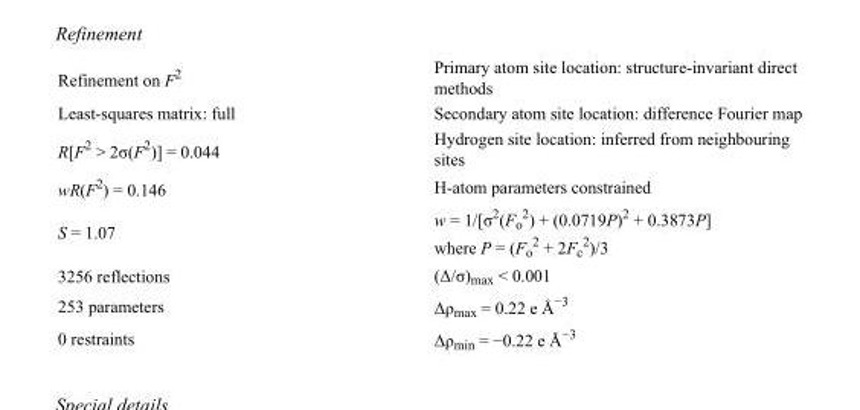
<table><tbody><tr><td>Refinement on F<sup>2</sup></td><td>Primary atom site location: structure-invariant direct methods</td></tr><tr><td>Least-squares matrix: full</td><td>Secondary atom site location: difference Fourier map</td></tr><tr><td>R[F<sup>2</sup> &gt; 2σ(F<sup>2</sup>)] = 0.044</td><td>Hydrogen site location: inferred from neighbouring sites</td></tr><tr><td>wR(F<sup>2</sup>) = 0.146</td><td>H-atom parameters constrained</td></tr><tr><td>S = 1.07</td><td>w = 1/[σ<sup>2</sup>(F<sub>o</sub> <sup>2</sup>) + (0.0719P)<sup>2</sup> + 0.3873P] where P = (F<sub>o</sub> <sup>2</sup> + 2F<sub>c</sub> <sup>2</sup>)/3</td></tr><tr><td>3256 reflections</td><td>(Δ/σ)<sub>max</sub> &lt; 0.001</td></tr><tr><td>253 parameters</td><td>Δρ<sub>max</sub> = 0.22 e Å<sup>−3</sup></td></tr><tr><td>0 restraints</td><td>Δρ<sub>min</sub> = −0.22 e Å<sup>−3</sup></td></tr></tbody></table>